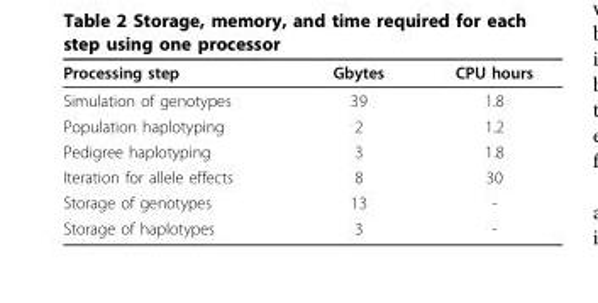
<table><thead><tr><td>Processing step</td><td>Gbytes</td><td>CPU hours</td></tr></thead><tbody><tr><td>Simulation of genotypes</td><td>39</td><td>1.8</td></tr><tr><td>Population haplotyping</td><td>2</td><td>1.2</td></tr><tr><td>Pedigree haplotyping</td><td>3</td><td>1.8</td></tr><tr><td>Iteration for allele effects</td><td>8</td><td>30</td></tr><tr><td>Storage of genotypes</td><td>13</td><td>-</td></tr><tr><td>Storage of haplotypes</td><td>3</td><td>-</td></tr></tbody></table>